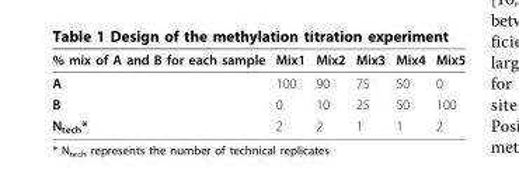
<table><thead><tr><td>% mix of A and B for each sample</td><td>Mix1</td><td>Mix2</td><td>Mix3</td><td>Mix4</td><td>Mix5</td></tr></thead><tbody><tr><td>A</td><td>100</td><td>90</td><td>75</td><td>50</td><td>0</td></tr><tr><td>B</td><td>0</td><td>10</td><td>25</td><td>50</td><td>100</td></tr><tr><td>N<sub>tech</sub>*</td><td>2</td><td>2</td><td>1</td><td>1</td><td>2</td></tr></tbody></table>